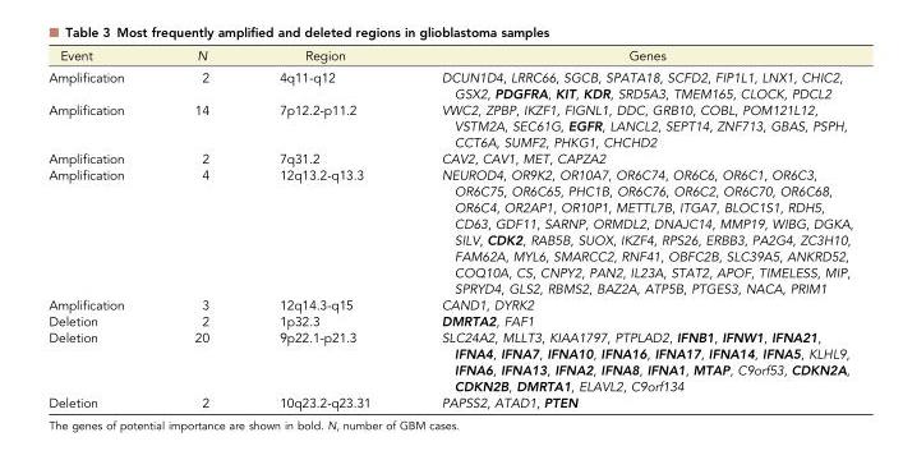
<table><thead><tr><td>Event</td><td>N</td><td>Region</td><td>Genes</td></tr></thead><tbody><tr><td>Amplification</td><td>2</td><td>4q11-q12</td><td>DCUN1D4, LRRC66, SGCB, SPATA18, SCFD2, FIP1L1, LNX1, CHIC2, GSX2, PDGFRA, KIT, KDR, SRD5A3, TMEM165, CLOCK, PDCL2</td></tr><tr><td>Amplification</td><td>14</td><td>7p12.2-p11.2</td><td>VWC2, ZPBP, IKZF1, FIGNL1, DDC, GRB10, COBL, POM121L12, VSTM2A, SEC61G, EGFR, LANCL2, SEPT14, ZNF713, GBAS, PSPH, CCT6A, SUMF2, PHKG1, CHCHD2</td></tr><tr><td>Amplification</td><td>2</td><td>7q31.2</td><td>CAV2, CAV1, MET, CAPZA2</td></tr><tr><td>Amplification</td><td>4</td><td>12q13.2-q13.3</td><td>NEUROD4, OR9K2, OR10A7, OR6C74, OR6C6, OR6C1, OR6C3, OR6C75, OR6C65, PHC1B, OR6C76, OR6C2, OR6C70, OR6C68, OR6C4, OR2AP1, OR10P1, METTL7B, ITGA7, BLOC1S1, RDH5, CD63, GDF11, SARNP, ORMDL2, DNAJC14, MMP19, WIBG, DGKA, SILV, CDK2, RAB5B, SUOX, IKZF4, RPS26, ERBB3, PA2G4, ZC3H10, FAM62A, MYL6, SMARCC2, RNF41, OBFC2B, SLC39A5, ANKRD52, COQ10A, CS, CNPY2, PAN2, IL23A, STAT2, APOF, TIMELESS, MIP, SPRYD4, GLS2, RBMS2, BAZ2A, ATP5B, PTGES3, NACA, PRIM1</td></tr><tr><td>Amplification</td><td>3</td><td>12q14.3-q15</td><td>CAND1, DYRK2</td></tr><tr><td>Deletion</td><td>2</td><td>1p32.3</td><td>DMRTA2, FAF1</td></tr><tr><td>Deletion</td><td>20</td><td>9p22.1-p21.3</td><td>SLC24A2, MLLT3, KIAA1797, PTPLAD2, IFNB1, IFNW1, IFNA21, IFNA4, IFNA7, IFNA10, IFNA16, IFNA17, IFNA14, IFNA5, KLHL9, IFNA6, IFNA13, IFNA2, IFNA8, IFNA1, MTAP, C9orf53, CDKN2A, CDKN2B, DMRTA1, ELAVL2, C9orf134</td></tr><tr><td>Deletion</td><td>2</td><td>10q23.2-q23.31</td><td>PAPSS2, ATAD1, PTEN</td></tr></tbody></table>